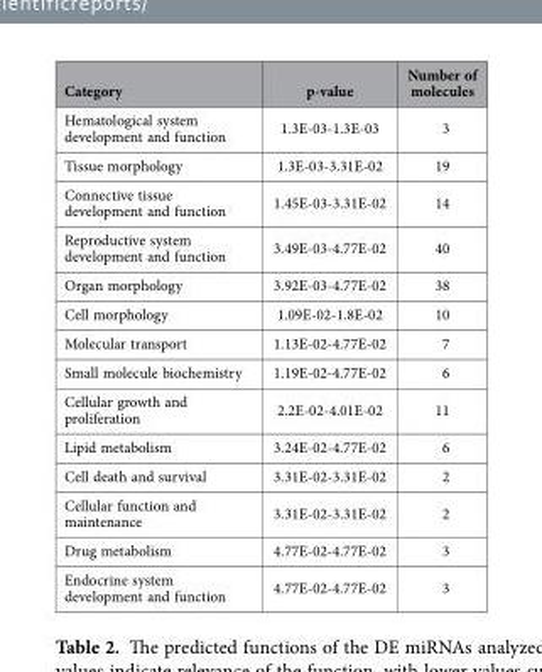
<table><thead><tr><td>Category</td><td>p-value</td><td>Number of molecules</td></tr></thead><tbody><tr><td>Hematological system development and function</td><td>1.3E-03-1.3E-03</td><td>3</td></tr><tr><td>Tissue morphology</td><td>1.3E-03-3.31E-02</td><td>19</td></tr><tr><td>Connective tissue development and function</td><td>1.45E-03-3.31E-02</td><td>14</td></tr><tr><td>Reproductive system development and function</td><td>3.49E-03-4.77E-02</td><td>40</td></tr><tr><td>Organ morphology</td><td>3.92E-03-4.77E-02</td><td>38</td></tr><tr><td>Cell morphology</td><td>1.09E-02-1.8E-02</td><td>10</td></tr><tr><td>Molecular transport</td><td>1.13E-02-4.77E-02</td><td>7</td></tr><tr><td>Small molecule biochemistry</td><td>1.19E-02-4.77E-02</td><td>6</td></tr><tr><td>Cellular growth and proliferation</td><td>2.2E-02-4.01E-02</td><td>11</td></tr><tr><td>Lipid metabolism</td><td>3.24E-02-4.77E-02</td><td>6</td></tr><tr><td>Cell death and survival</td><td>3.31E-02-3.31E-02</td><td>2</td></tr><tr><td>Cellular function and maintenance</td><td>3.31E-02-3.31E-02</td><td>2</td></tr><tr><td>Drug metabolism</td><td>4.77E-02-4.77E-02</td><td>3</td></tr><tr><td>Endocrine system development and function</td><td>4.77E-02-4.77E-02</td><td>3</td></tr></tbody></table>